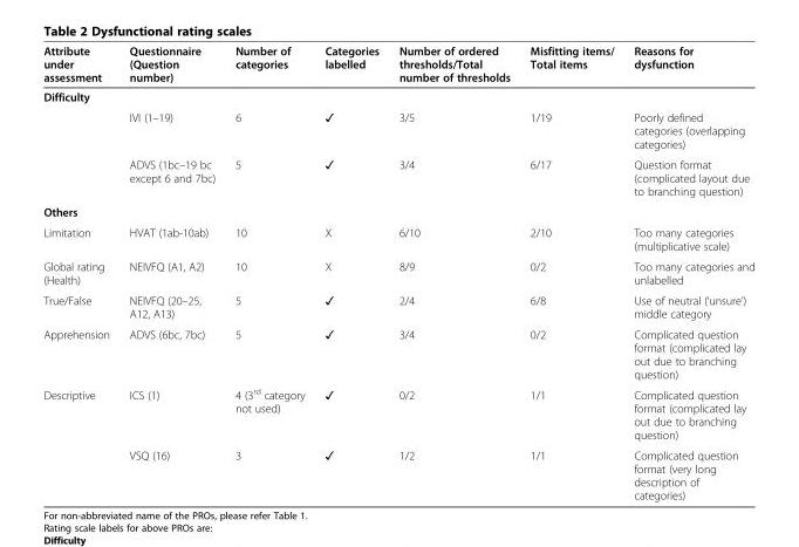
<table><thead><tr><td>Attribute under assessment</td><td>Questionnaire (Question number)</td><td>Number of categories</td><td>Categories labelled</td><td>Number of ordered thresholds/Total number of thresholds</td><td>Misfitting items/ Total items</td><td>Reasons for dysfunction</td></tr></thead><tbody><tr><td colspan="7">Difficulty</td></tr><tr><td></td><td>IVI (1–19)</td><td>6</td><td>✓</td><td>3/5</td><td>1/19</td><td>Poorly defined categories (overlapping categories)</td></tr><tr><td></td><td>ADVS (1bc–19 bc except 6 and 7bc)</td><td>5</td><td>✓</td><td>3/4</td><td>6/17</td><td>Question format (complicated layout due to branching question)</td></tr><tr><td colspan="7">Others</td></tr><tr><td>Limitation</td><td>HVAT (1ab-10ab)</td><td>10</td><td>X</td><td>6/10</td><td>2/10</td><td>Too many categories (multiplicative scale)</td></tr><tr><td>Global rating (Health)</td><td>NEIVFQ (A1, A2)</td><td>10</td><td>X</td><td>8/9</td><td>0/2</td><td>Too many categories and unlabelled</td></tr><tr><td>True/False</td><td>NEIVFQ (20–25, A12, A13)</td><td>5</td><td>✓</td><td>2/4</td><td>6/8</td><td>Use of neutral (‘unsure’) middle category</td></tr><tr><td>Apprehension</td><td>ADVS (6bc, 7bc)</td><td>5</td><td>✓</td><td>3/4</td><td>0/2</td><td>Complicated question format (complicated lay out due to branching question)</td></tr><tr><td rowspan="2">Descriptive</td><td>ICS (1)</td><td>4 (3<sup>rd</sup> category not used)</td><td>✓</td><td>0/2</td><td>1/1</td><td>Complicated question format (complicated lay out due to branching question)</td></tr><tr><td>VSQ (16)</td><td>3</td><td>✓</td><td>1/2</td><td>1/1</td><td>Complicated question format (very long description of categories)</td></tr></tbody></table>